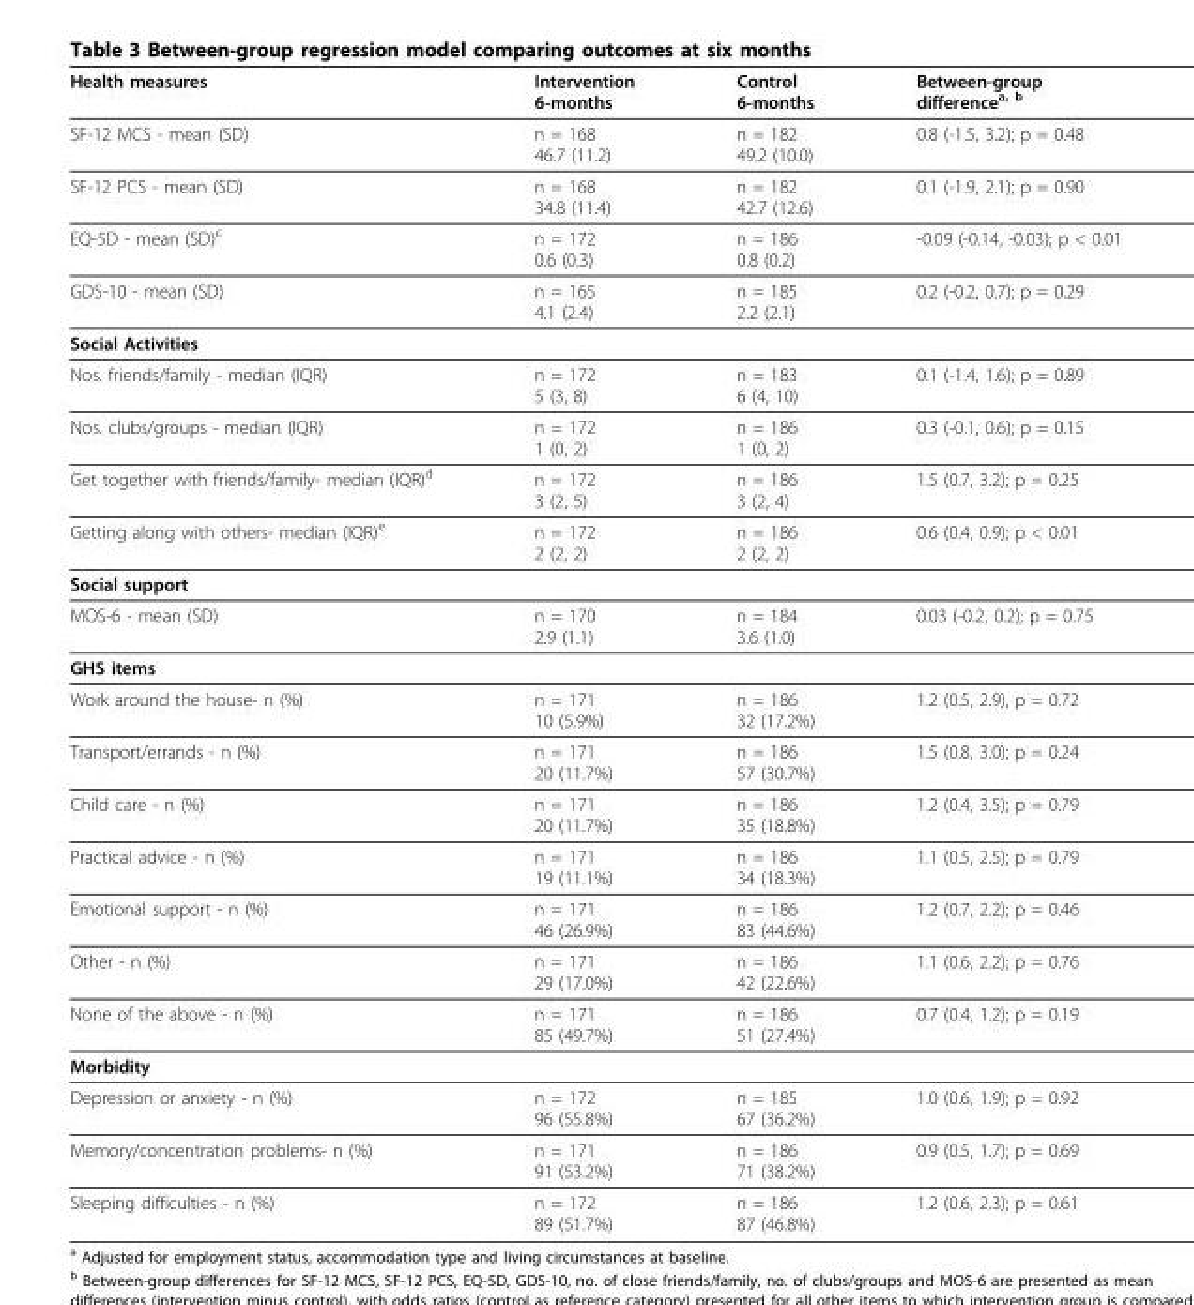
<table><thead><tr><td>Health measures</td><td>Intervention 6-months</td><td>Control 6-months</td><td>Between-group difference<sup>a, b</sup></td></tr></thead><tbody><tr><td>SF-12 MCS - mean (SD)</td><td>n = 168 46.7 (11.2)</td><td>n = 182 49.2 (10.0)</td><td>0.8 (-1.5, 3.2); p = 0.48</td></tr><tr><td>SF-12 PCS - mean (SD)</td><td>n = 168 34.8 (11.4)</td><td>n = 182 42.7 (12.6)</td><td>0.1 (-1.9, 2.1); p = 0.90</td></tr><tr><td>EQ-5D - mean (SD)<sup>c</sup></td><td>n = 172 0.6 (0.3)</td><td>n = 186 0.8 (0.2)</td><td>-0.09 (-0.14, -0.03); p &lt; 0.01</td></tr><tr><td>GDS-10 - mean (SD)</td><td>n = 165 4.1 (2.4)</td><td>n = 185 2.2 (2.1)</td><td>0.2 (-0.2, 0.7); p = 0.29</td></tr><tr><td colspan="4">Social Activities</td></tr><tr><td>Nos. friends/family - median (IQR)</td><td>n = 172 5 (3, 8)</td><td>n = 183 6 (4, 10)</td><td>0.1 (-1.4, 1.6); p = 0.89</td></tr><tr><td>Nos. clubs/groups - median (IQR)</td><td>n = 172 1 (0, 2)</td><td>n = 186 1 (0, 2)</td><td>0.3 (-0.1, 0.6); p = 0.15</td></tr><tr><td>Get together with friends/family- median (IQR)<sup>d</sup></td><td>n = 172 3 (2, 5)</td><td>n = 186 3 (2, 4)</td><td>1.5 (0.7, 3.2); p = 0.25</td></tr><tr><td>Getting along with others- median (IQR)<sup>e</sup></td><td>n = 172 2 (2, 2)</td><td>n = 186 2 (2, 2)</td><td>0.6 (0.4, 0.9); p &lt; 0.01</td></tr><tr><td colspan="4">Social support</td></tr><tr><td>MOS-6 - mean (SD)</td><td>n = 170 2.9 (1.1)</td><td>n = 184 3.6 (1.0)</td><td>0.03 (-0.2, 0.2); p = 0.75</td></tr><tr><td colspan="4">GHS items</td></tr><tr><td>Work around the house- n (%)</td><td>n = 171 10 (5.9%)</td><td>n = 186 32 (17.2%)</td><td>1.2 (0.5, 2.9), p = 0.72</td></tr><tr><td>Transport/errands - n (%)</td><td>n = 171 20 (11.7%)</td><td>n = 186 57 (30.7%)</td><td>1.5 (0.8, 3.0); p = 0.24</td></tr><tr><td>Child care - n (%)</td><td>n = 171 20 (11.7%)</td><td>n = 186 35 (18.8%)</td><td>1.2 (0.4, 3.5); p = 0.79</td></tr><tr><td>Practical advice - n (%)</td><td>n = 171 19 (11.1%)</td><td>n = 186 34 (18.3%)</td><td>1.1 (0.5, 2.5); p = 0.79</td></tr><tr><td>Emotional support - n (%)</td><td>n = 171 46 (26.9%)</td><td>n = 186 83 (44.6%)</td><td>1.2 (0.7, 2.2); p = 0.46</td></tr><tr><td>Other - n (%)</td><td>n = 171 29 (17.0%)</td><td>n = 186 42 (22.6%)</td><td>1.1 (0.6, 2.2); p = 0.76</td></tr><tr><td>None of the above - n (%)</td><td>n = 171 85 (49.7%)</td><td>n = 186 51 (27.4%)</td><td>0.7 (0.4, 1.2); p = 0.19</td></tr><tr><td colspan="4">Morbidity</td></tr><tr><td>Depression or anxiety - n (%)</td><td>n = 172 96 (55.8%)</td><td>n = 185 67 (36.2%)</td><td>1.0 (0.6, 1.9); p = 0.92</td></tr><tr><td>Memory/concentration problems- n (%)</td><td>n = 171 91 (53.2%)</td><td>n = 186 71 (38.2%)</td><td>0.9 (0.5, 1.7); p = 0.69</td></tr><tr><td>Sleeping difficulties - n (%)</td><td>n = 172 89 (51.7%)</td><td>n = 186 87 (46.8%)</td><td>1.2 (0.6, 2.3); p = 0.61</td></tr></tbody></table>